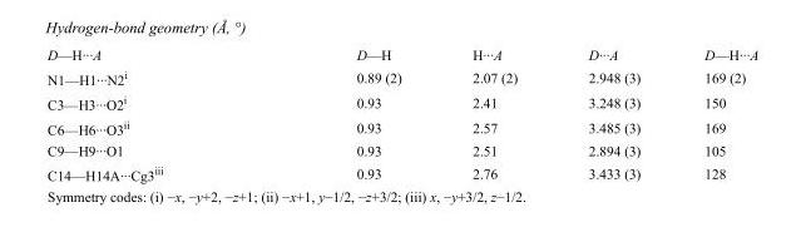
<table><tbody><tr><td>D—H···A</td><td>D—H</td><td>H···A</td><td>D···A</td><td>D—H···A</td></tr><tr><td>N1—H1···N2<sup>i</sup></td><td>0.89 (2)</td><td>2.07 (2)</td><td>2.948 (3)</td><td>169 (2)</td></tr><tr><td>C3—H3···O2<sup>i</sup></td><td>0.93</td><td>2.41</td><td>3.248 (3)</td><td>150</td></tr><tr><td>C6—H6···O3<sup>ii</sup></td><td>0.93</td><td>2.57</td><td>3.485 (3)</td><td>169</td></tr><tr><td>C9—H9···O1</td><td>0.93</td><td>2.51</td><td>2.894 (3)</td><td>105</td></tr><tr><td>C14—H14A···Cg3<sup>iii</sup></td><td>0.93</td><td>2.76</td><td>3.433 (3)</td><td>128</td></tr></tbody></table>